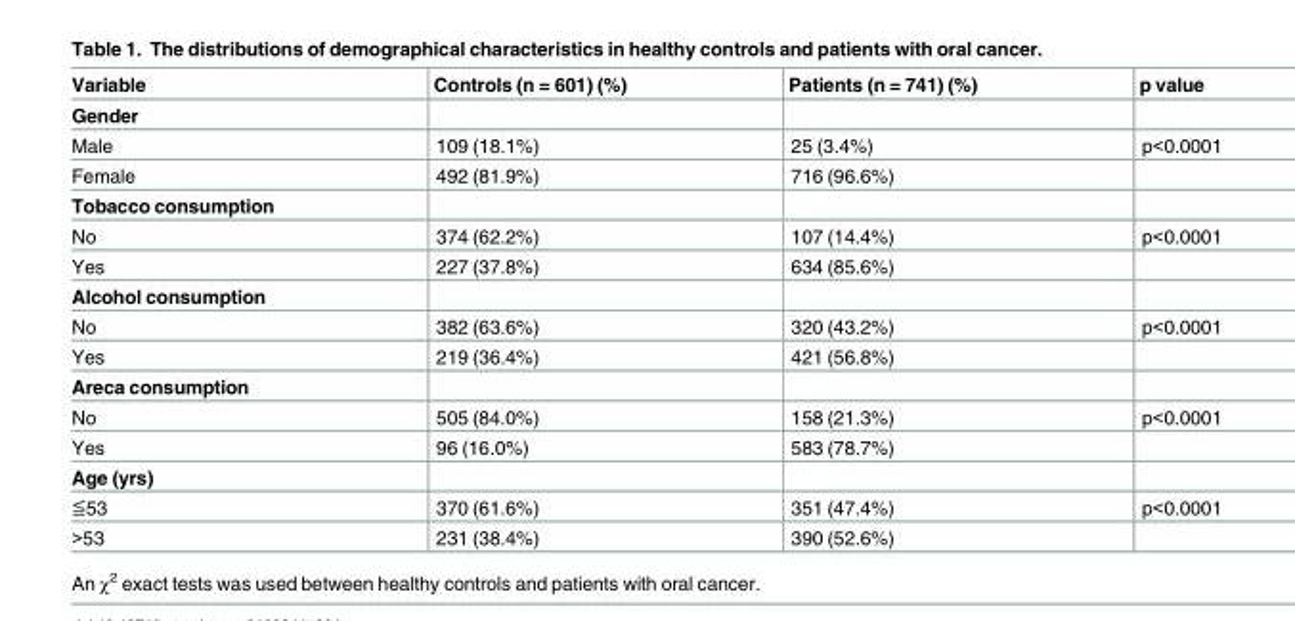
<table><thead><tr><td>Variable</td><td>Controls (n = 601) (%)</td><td>Patients (n = 741) (%)</td><td>p value</td></tr></thead><tbody><tr><td colspan="4">Gender</td></tr><tr><td>Male</td><td>109 (18.1%)</td><td>25 (3.4%)</td><td>p&lt;0.0001</td></tr><tr><td>Female</td><td>492 (81.9%)</td><td>716 (96.6%)</td><td></td></tr><tr><td colspan="4">Tobacco consumption</td></tr><tr><td>No</td><td>374 (62.2%)</td><td>107 (14.4%)</td><td>p&lt;0.0001</td></tr><tr><td>Yes</td><td>227 (37.8%)</td><td>634 (85.6%)</td><td></td></tr><tr><td colspan="4">Alcohol consumption</td></tr><tr><td>No</td><td>382 (63.6%)</td><td>320 (43.2%)</td><td>p&lt;0.0001</td></tr><tr><td>Yes</td><td>219 (36.4%)</td><td>421 (56.8%)</td><td></td></tr><tr><td colspan="4">Areca consumption</td></tr><tr><td>No</td><td>505 (84.0%)</td><td>158 (21.3%)</td><td>p&lt;0.0001</td></tr><tr><td>Yes</td><td>96 (16.0%)</td><td>583 (78.7%)</td><td></td></tr><tr><td colspan="4">Age (yrs)</td></tr><tr><td>≦53</td><td>370 (61.6%)</td><td>351 (47.4%)</td><td>p&lt;0.0001</td></tr><tr><td>&gt;53</td><td>231 (38.4%)</td><td>390 (52.6%)</td><td></td></tr></tbody></table>